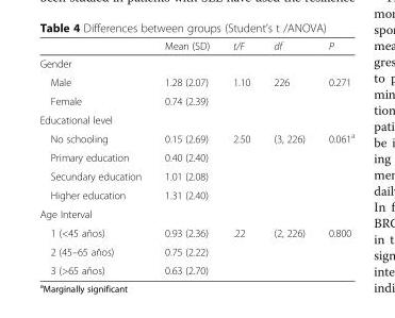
<table><thead><tr><td></td><td>Mean (SD)</td><td>t/F</td><td>df</td><td>P</td></tr></thead><tbody><tr><td colspan="5">Gender</td></tr><tr><td>Male</td><td>1.28 (2.07)</td><td>1.10</td><td>226</td><td>0.271</td></tr><tr><td>Female</td><td>0.74 (2.39)</td><td></td><td></td><td></td></tr><tr><td colspan="5">Educational level</td></tr><tr><td>No schooling</td><td>0.15 (2.69)</td><td>2.50</td><td>(3, 226)</td><td>0.061<sup>a</sup></td></tr><tr><td>Primary education</td><td>0.40 (2.40)</td><td></td><td></td><td></td></tr><tr><td>Secundary education</td><td>1.01 (2.08)</td><td></td><td></td><td></td></tr><tr><td>Higher education</td><td>1.31 (2.40)</td><td></td><td></td><td></td></tr><tr><td colspan="5">Age Interval</td></tr><tr><td>1 (&lt;45 años)</td><td>0.93 (2.36)</td><td>.22</td><td>(2, 226)</td><td>0.800</td></tr><tr><td>2 (45–65 años)</td><td>0.75 (2.22)</td><td></td><td></td><td></td></tr><tr><td>3 (&gt;65 años)</td><td>0.63 (2.70)</td><td></td><td></td><td></td></tr></tbody></table>